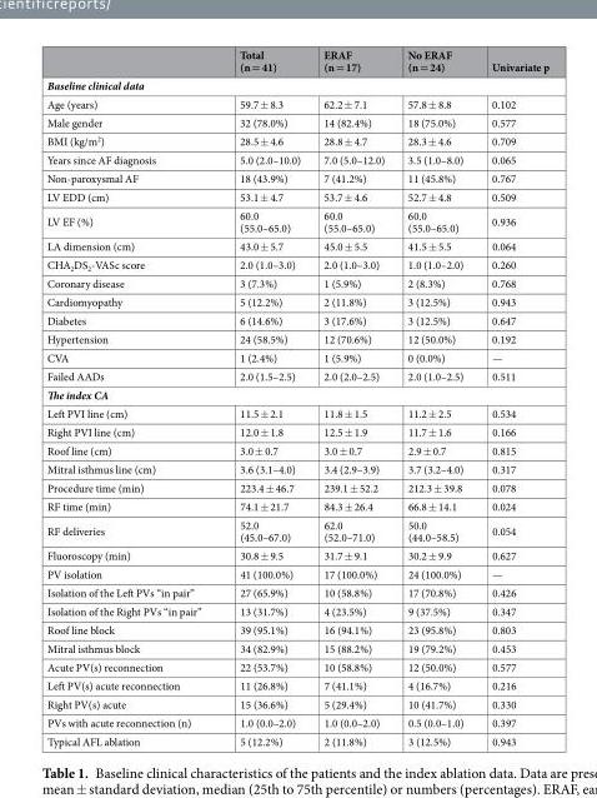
<table><thead><tr><td></td><td>Total (n = 41)</td><td>ERAF (n = 17)</td><td>No ERAF (n = 24)</td><td>Univariate p</td></tr></thead><tbody><tr><td colspan="5">Baseline clinical data</td></tr><tr><td>Age (years)</td><td>59.7 ± 8.3</td><td>62.2 ± 7.1</td><td>57.8 ± 8.8</td><td>0.102</td></tr><tr><td>Male gender</td><td>32 (78.0%)</td><td>14 (82.4%)</td><td>18 (75.0%)</td><td>0.577</td></tr><tr><td>BMI (kg/m<sup>2</sup>)</td><td>28.5 ± 4.6</td><td>28.8 ± 4.7</td><td>28.3 ± 4.6</td><td>0.709</td></tr><tr><td>Years since AF diagnosis</td><td>5.0 (2.0–10.0)</td><td>7.0 (5.0–12.0)</td><td>3.5 (1.0–8.0)</td><td>0.065</td></tr><tr><td>Non-paroxysmal AF</td><td>18 (43.9%)</td><td>7 (41.2%)</td><td>11 (45.8%)</td><td>0.767</td></tr><tr><td>LV EDD (cm)</td><td>53.1 ± 4.7</td><td>53.7 ± 4.6</td><td>52.7 ± 4.8</td><td>0.509</td></tr><tr><td>LV EF (%)</td><td>60.0 (55.0–65.0)</td><td>60.0 (55.0–65.0)</td><td>60.0 (55.0–65.0)</td><td>0.936</td></tr><tr><td>LA dimension (cm)</td><td>43.0 ± 5.7</td><td>45.0 ± 5.5</td><td>41.5 ± 5.5</td><td>0.064</td></tr><tr><td>CHA<sub>2</sub>DS<sub>2</sub>-VASc score</td><td>2.0 (1.0–3.0)</td><td>2.0 (1.0–3.0)</td><td>1.0 (1.0–2.0)</td><td>0.260</td></tr><tr><td>Coronary disease</td><td>3 (7.3%)</td><td>1 (5.9%)</td><td>2 (8.3%)</td><td>0.768</td></tr><tr><td>Cardiomyopathy</td><td>5 (12.2%)</td><td>2 (11.8%)</td><td>3 (12.5%)</td><td>0.943</td></tr><tr><td>Diabetes</td><td>6 (14.6%)</td><td>3 (17.6%)</td><td>3 (12.5%)</td><td>0.647</td></tr><tr><td>Hypertension</td><td>24 (58.5%)</td><td>12 (70.6%)</td><td>12 (50.0%)</td><td>0.192</td></tr><tr><td>CVA</td><td>1 (2.4%)</td><td>1 (5.9%)</td><td>0 (0.0%)</td><td>—</td></tr><tr><td>Failed AADs</td><td>2.0 (1.5–2.5)</td><td>2.0 (2.0–2.5)</td><td>2.0 (1.0–2.5)</td><td>0.511</td></tr><tr><td colspan="5">The index CA</td></tr><tr><td>Left PVI line (cm)</td><td>11.5 ± 2.1</td><td>11.8 ± 1.5</td><td>11.2 ± 2.5</td><td>0.534</td></tr><tr><td>Right PVI line (cm)</td><td>12.0 ± 1.8</td><td>12.5 ± 1.9</td><td>11.7 ± 1.6</td><td>0.166</td></tr><tr><td>Roof line (cm)</td><td>3.0 ± 0.7</td><td>3.0 ± 0.7</td><td>2.9 ± 0.7</td><td>0.815</td></tr><tr><td>Mitral isthmus line (cm)</td><td>3.6 (3.1–4.0)</td><td>3.4 (2.9–3.9)</td><td>3.7 (3.2–4.0)</td><td>0.317</td></tr><tr><td>Procedure time (min)</td><td>223.4 ± 46.7</td><td>239.1 ± 52.2</td><td>212.3 ± 39.8</td><td>0.078</td></tr><tr><td>RF time (min)</td><td>74.1 ± 21.7</td><td>84.3 ± 26.4</td><td>66.8 ± 14.1</td><td>0.024</td></tr><tr><td>RF deliveries</td><td>52.0 (45.0–67.0)</td><td>62.0 (52.0–71.0)</td><td>50.0 (44.0–58.5)</td><td>0.054</td></tr><tr><td>Fluoroscopy (min)</td><td>30.8 ± 9.5</td><td>31.7 ± 9.1</td><td>30.2 ± 9.9</td><td>0.627</td></tr><tr><td>PV isolation</td><td>41 (100.0%)</td><td>17 (100.0%)</td><td>24 (100.0%)</td><td>—</td></tr><tr><td>Isolation of the Left PVs “in pair”</td><td>27 (65.9%)</td><td>10 (58.8%)</td><td>17 (70.8%)</td><td>0.426</td></tr><tr><td>Isolation of the Right PVs “in pair”</td><td>13 (31.7%)</td><td>4 (23.5%)</td><td>9 (37.5%)</td><td>0.347</td></tr><tr><td>Roof line block</td><td>39 (95.1%)</td><td>16 (94.1%)</td><td>23 (95.8%)</td><td>0.803</td></tr><tr><td>Mitral isthmus block</td><td>34 (82.9%)</td><td>15 (88.2%)</td><td>19 (79.2%)</td><td>0.453</td></tr><tr><td>Acute PV(s) reconnection</td><td>22 (53.7%)</td><td>10 (58.8%)</td><td>12 (50.0%)</td><td>0.577</td></tr><tr><td>Left PV(s) acute reconnection</td><td>11 (26.8%)</td><td>7 (41.1%)</td><td>4 (16.7%)</td><td>0.216</td></tr><tr><td>Right PV(s) acute</td><td>15 (36.6%)</td><td>5 (29.4%)</td><td>10 (41.7%)</td><td>0.330</td></tr><tr><td>PVs with acute reconnection (n)</td><td>1.0 (0.0–2.0)</td><td>1.0 (0.0–2.0)</td><td>0.5 (0.0–1.0)</td><td>0.397</td></tr><tr><td>Typical AFL ablation</td><td>5 (12.2%)</td><td>2 (11.8%)</td><td>3 (12.5%)</td><td>0.943</td></tr></tbody></table>